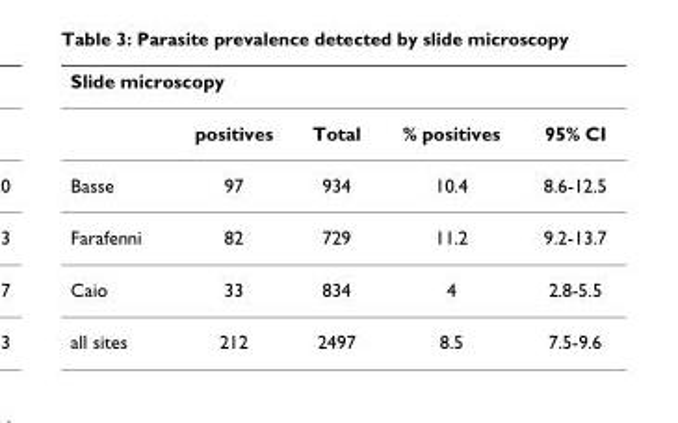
<table><thead><tr><td colspan="5">Slide microscopy</td></tr><tr><td></td><td>positives</td><td>Total</td><td>% positives</td><td>95% CI</td></tr></thead><tbody><tr><td>Basse</td><td>97</td><td>934</td><td>10.4</td><td>8.6-12.5</td></tr><tr><td>Farafenni</td><td>82</td><td>729</td><td>11.2</td><td>9.2-13.7</td></tr><tr><td>Caio</td><td>33</td><td>834</td><td>4</td><td>2.8-5.5</td></tr><tr><td>all sites</td><td>212</td><td>2497</td><td>8.5</td><td>7.5-9.6</td></tr></tbody></table>